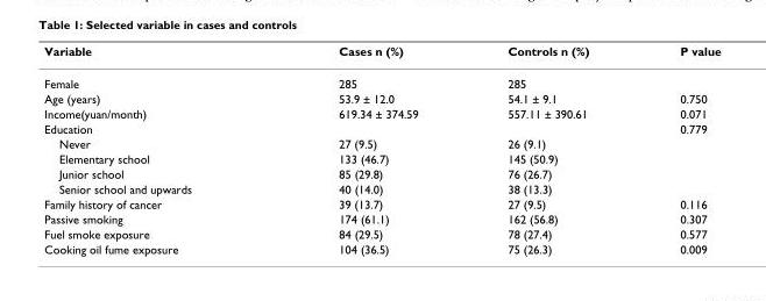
<table><thead><tr><td>Variable</td><td>Cases n (%)</td><td>Controls n (%)</td><td>P value</td></tr></thead><tbody><tr><td>Female</td><td>285</td><td>285</td><td></td></tr><tr><td>Age (years)</td><td>53.9 ± 12.0</td><td>54.1 ± 9.1</td><td>0.750</td></tr><tr><td>Income(yuan/month)</td><td>619.34 ± 374.59</td><td>557.11 ± 390.61</td><td>0.071</td></tr><tr><td>Education</td><td></td><td></td><td>0.779</td></tr><tr><td>Never</td><td>27 (9.5)</td><td>26 (9.1)</td><td></td></tr><tr><td>Elementary school</td><td>133 (46.7)</td><td>145 (50.9)</td><td></td></tr><tr><td>Junior school</td><td>85 (29.8)</td><td>76 (26.7)</td><td></td></tr><tr><td>Senior school and upwards</td><td>40 (14.0)</td><td>38 (13.3)</td><td></td></tr><tr><td>Family history of cancer</td><td>39 (13.7)</td><td>27 (9.5)</td><td>0.116</td></tr><tr><td>Passive smoking</td><td>174 (61.1)</td><td>162 (56.8)</td><td>0.307</td></tr><tr><td>Fuel smoke exposure</td><td>84 (29.5)</td><td>78 (27.4)</td><td>0.577</td></tr><tr><td>Cooking oil fume exposure</td><td>104 (36.5)</td><td>75 (26.3)</td><td>0.009</td></tr></tbody></table>